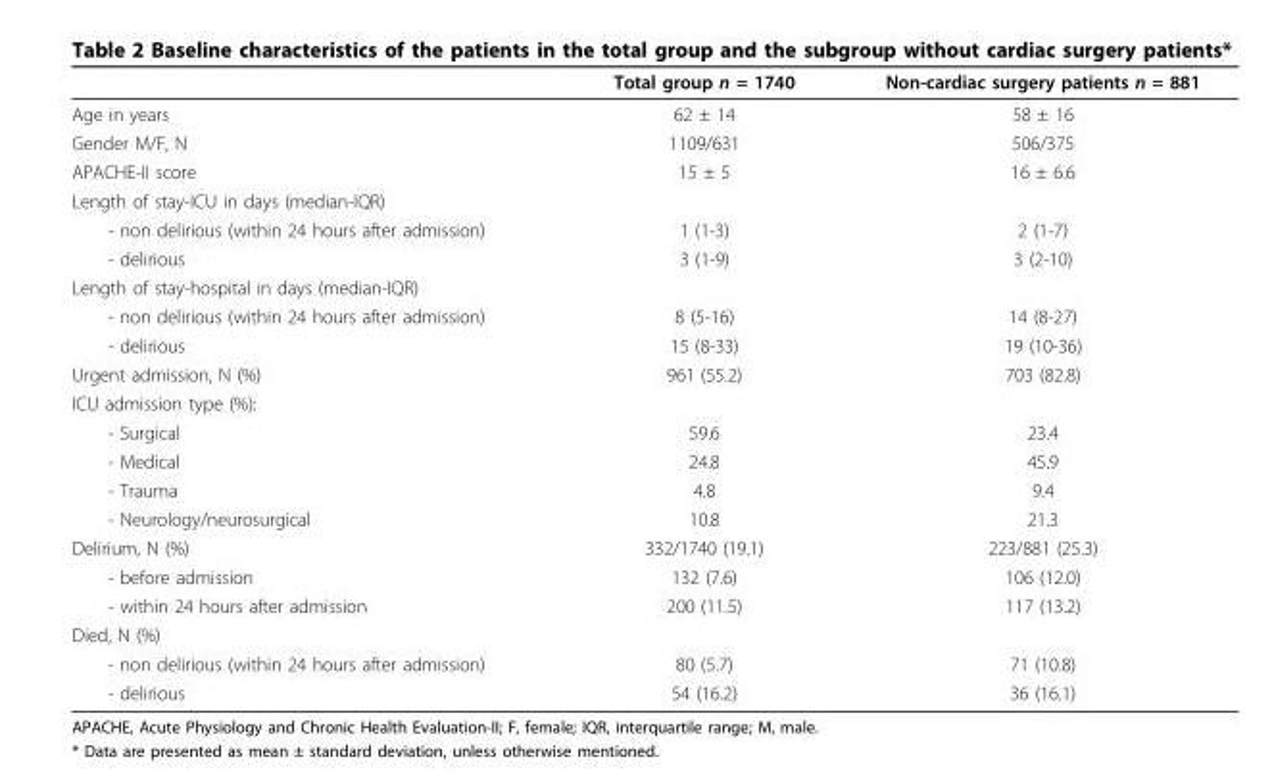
<table><thead><tr><td></td><td>Total group n = 1740</td><td>Non-cardiac surgery patients n = 881</td></tr></thead><tbody><tr><td>Age in years</td><td>62 ± 14</td><td>58 ± 16</td></tr><tr><td>Gender M/F, N</td><td>1109/631</td><td>506/375</td></tr><tr><td>APACHE-II score</td><td>15 ± 5</td><td>16 ± 6.6</td></tr><tr><td colspan="3">Length of stay-ICU in days (median-IQR)</td></tr><tr><td>- non delirious (within 24 hours after admission)</td><td>1 (1-3)</td><td>2 (1-7)</td></tr><tr><td>- delirious</td><td>3 (1-9)</td><td>3 (2-10)</td></tr><tr><td colspan="3">Length of stay-hospital in days (median-IQR)</td></tr><tr><td>- non delirious (within 24 hours after admission)</td><td>8 (5-16)</td><td>14 (8-27)</td></tr><tr><td>- delirious</td><td>15 (8-33)</td><td>19 (10-36)</td></tr><tr><td>Urgent admission, N (%)</td><td>961 (55.2)</td><td>703 (82.8)</td></tr><tr><td colspan="3">ICU admission type (%):</td></tr><tr><td>- Surgical</td><td>59.6</td><td>23.4</td></tr><tr><td>- Medical</td><td>24.8</td><td>45.9</td></tr><tr><td>- Trauma</td><td>4.8</td><td>9.4</td></tr><tr><td>- Neurology/neurosurgical</td><td>10.8</td><td>21.3</td></tr><tr><td>Delirium, N (%)</td><td>332/1740 (19.1)</td><td>223/881 (25.3)</td></tr><tr><td>- before admission</td><td>132 (7.6)</td><td>106 (12.0)</td></tr><tr><td>- within 24 hours after admission</td><td>200 (11.5)</td><td>117 (13.2)</td></tr><tr><td colspan="3">Died, N (%)</td></tr><tr><td>- non delirious (within 24 hours after admission)</td><td>80 (5.7)</td><td>71 (10.8)</td></tr><tr><td>- delirious</td><td>54 (16.2)</td><td>36 (16.1)</td></tr></tbody></table>